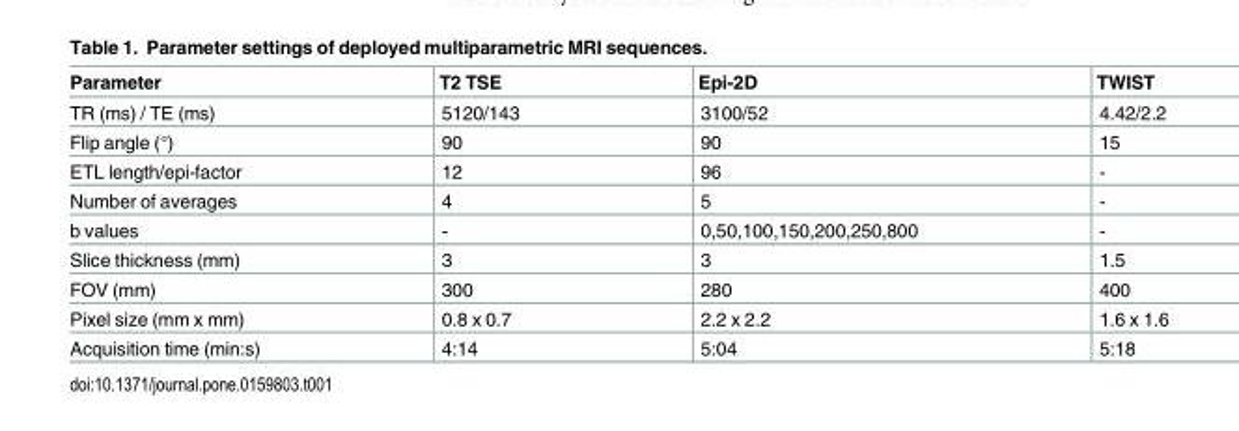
<table><thead><tr><td>Parameter</td><td>T2 TSE</td><td>Epi-2D</td><td>TWIST</td></tr></thead><tbody><tr><td>TR (ms) / TE (ms)</td><td>5120/143</td><td>3100/52</td><td>4.42/2.2</td></tr><tr><td>Flip angle (°)</td><td>90</td><td>90</td><td>15</td></tr><tr><td>ETL length/epi-factor</td><td>12</td><td>96</td><td>-</td></tr><tr><td>Number of averages</td><td>4</td><td>5</td><td>-</td></tr><tr><td>b values</td><td>-</td><td>0,50,100,150,200,250,800</td><td>-</td></tr><tr><td>Slice thickness (mm)</td><td>3</td><td>3</td><td>1.5</td></tr><tr><td>FOV (mm)</td><td>300</td><td>280</td><td>400</td></tr><tr><td>Pixel size (mm x mm)</td><td>0.8 x 0.7</td><td>2.2 x 2.2</td><td>1.6 x 1.6</td></tr><tr><td>Acquisition time (min:s)</td><td>4:14</td><td>5:04</td><td>5:18</td></tr></tbody></table>